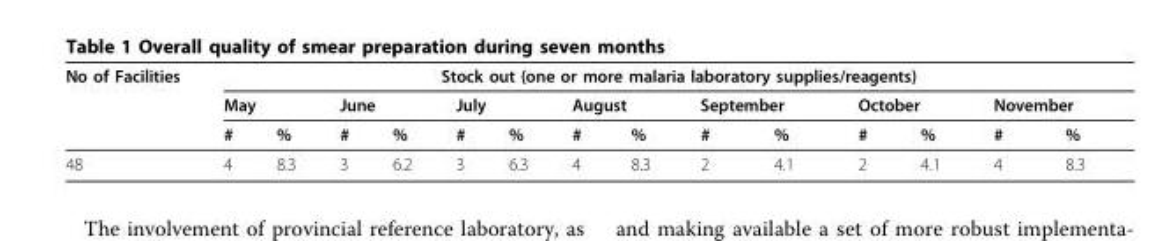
<table><thead><tr><td rowspan="3">No of Facilities</td><td colspan="14">Stock out (one or more malaria laboratory supplies/reagents)</td></tr><tr><td colspan="2">May</td><td colspan="2">June</td><td colspan="2">July</td><td colspan="2">August</td><td colspan="2">September</td><td colspan="2">October</td><td colspan="2">November</td></tr><tr><td>#</td><td>%</td><td>#</td><td>%</td><td>#</td><td>%</td><td>#</td><td>%</td><td>#</td><td>%</td><td>#</td><td>%</td><td>#</td><td>%</td></tr></thead><tbody><tr><td>48</td><td>4</td><td>8.3</td><td>3</td><td>6.2</td><td>3</td><td>6.3</td><td>4</td><td>8.3</td><td>2</td><td>4.1</td><td>2</td><td>4.1</td><td>4</td><td>8.3</td></tr></tbody></table>